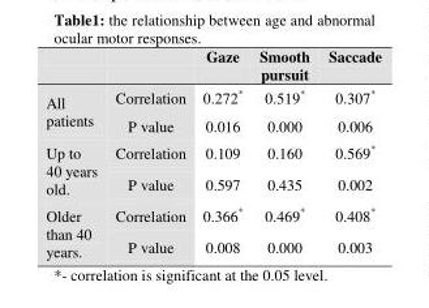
<table><thead><tr><td></td><td></td><td>Gaze</td><td>Smooth pursuit</td><td>Saccade</td></tr></thead><tbody><tr><td rowspan="2">All patients</td><td>Correlation</td><td>0.272*</td><td>0.519*</td><td>0.307*</td></tr><tr><td>P value</td><td>0.016</td><td>0.000</td><td>0.006</td></tr><tr><td rowspan="2">Up to 40 years old.</td><td>Correlation</td><td>0.109</td><td>0.160</td><td>0.569*</td></tr><tr><td>P value</td><td>0.597</td><td>0.435</td><td>0.002</td></tr><tr><td rowspan="2">Older than 40 years.</td><td>Correlation</td><td>0.366*</td><td>0.469*</td><td>0.408*</td></tr><tr><td>P value</td><td>0.008</td><td>0.000</td><td>0.003</td></tr></tbody></table>